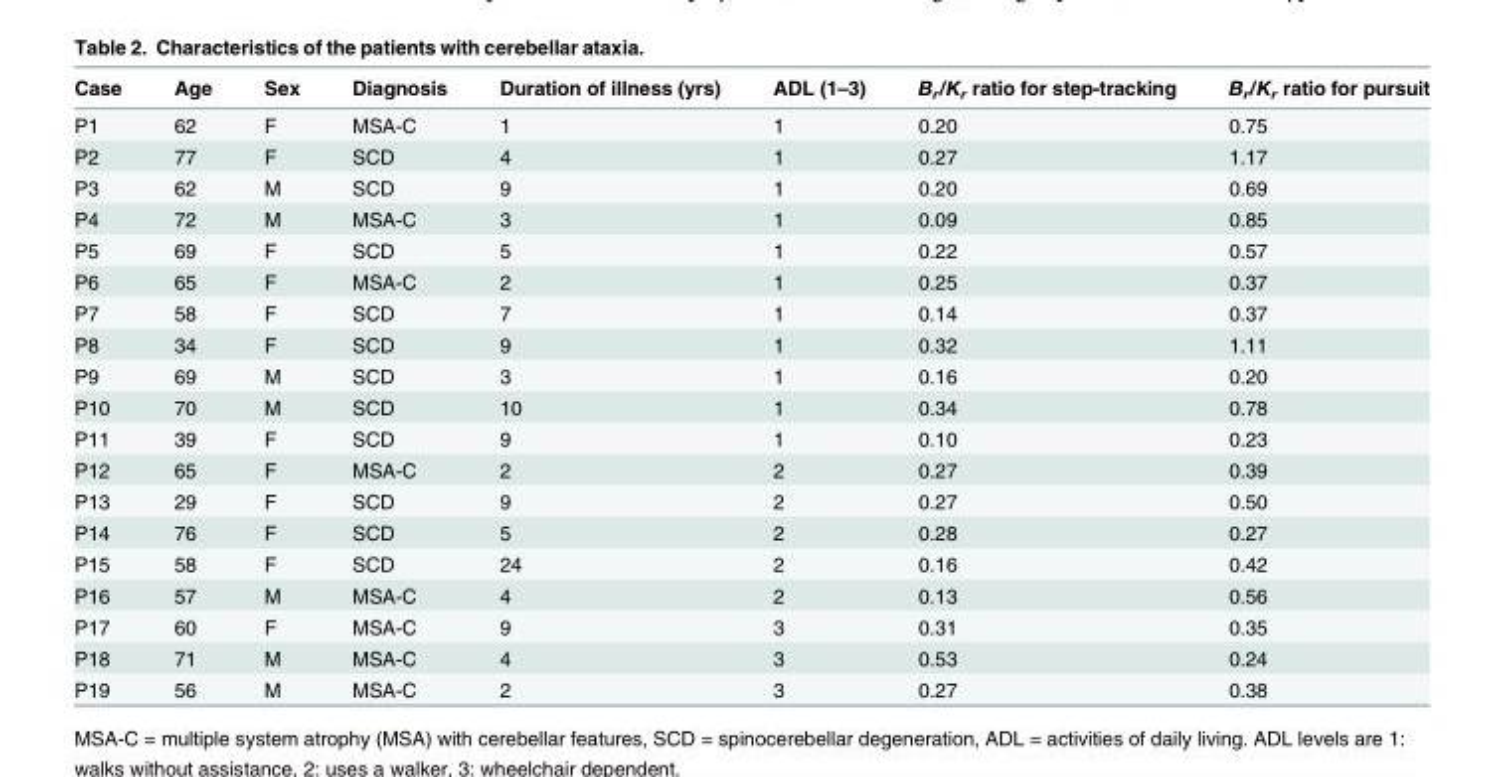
<table><thead><tr><td>Case</td><td>Age</td><td>Sex</td><td>Diagnosis</td><td>Duration of illness (yrs)</td><td>ADL (1–3)</td><td>B<sub>r</sub>/K<sub>r</sub> ratio for step-tracking</td><td>B<sub>r</sub>/K<sub>r</sub> ratio for pursuit</td></tr></thead><tbody><tr><td>P1</td><td>62</td><td>F</td><td>MSA-C</td><td>1</td><td>1</td><td>0.20</td><td>0.75</td></tr><tr><td>P2</td><td>77</td><td>F</td><td>SCD</td><td>4</td><td>1</td><td>0.27</td><td>1.17</td></tr><tr><td>P3</td><td>62</td><td>M</td><td>SCD</td><td>9</td><td>1</td><td>0.20</td><td>0.69</td></tr><tr><td>P4</td><td>72</td><td>M</td><td>MSA-C</td><td>3</td><td>1</td><td>0.09</td><td>0.85</td></tr><tr><td>P5</td><td>69</td><td>F</td><td>SCD</td><td>5</td><td>1</td><td>0.22</td><td>0.57</td></tr><tr><td>P6</td><td>65</td><td>F</td><td>MSA-C</td><td>2</td><td>1</td><td>0.25</td><td>0.37</td></tr><tr><td>P7</td><td>58</td><td>F</td><td>SCD</td><td>7</td><td>1</td><td>0.14</td><td>0.37</td></tr><tr><td>P8</td><td>34</td><td>F</td><td>SCD</td><td>9</td><td>1</td><td>0.32</td><td>1.11</td></tr><tr><td>P9</td><td>69</td><td>M</td><td>SCD</td><td>3</td><td>1</td><td>0.16</td><td>0.20</td></tr><tr><td>P10</td><td>70</td><td>M</td><td>SCD</td><td>10</td><td>1</td><td>0.34</td><td>0.78</td></tr><tr><td>P11</td><td>39</td><td>F</td><td>SCD</td><td>9</td><td>1</td><td>0.10</td><td>0.23</td></tr><tr><td>P12</td><td>65</td><td>F</td><td>MSA-C</td><td>2</td><td>2</td><td>0.27</td><td>0.39</td></tr><tr><td>P13</td><td>29</td><td>F</td><td>SCD</td><td>9</td><td>2</td><td>0.27</td><td>0.50</td></tr><tr><td>P14</td><td>76</td><td>F</td><td>SCD</td><td>5</td><td>2</td><td>0.28</td><td>0.27</td></tr><tr><td>P15</td><td>58</td><td>F</td><td>SCD</td><td>24</td><td>2</td><td>0.16</td><td>0.42</td></tr><tr><td>P16</td><td>57</td><td>M</td><td>MSA-C</td><td>4</td><td>2</td><td>0.13</td><td>0.56</td></tr><tr><td>P17</td><td>60</td><td>F</td><td>MSA-C</td><td>9</td><td>3</td><td>0.31</td><td>0.35</td></tr><tr><td>P18</td><td>71</td><td>M</td><td>MSA-C</td><td>4</td><td>3</td><td>0.53</td><td>0.24</td></tr><tr><td>P19</td><td>56</td><td>M</td><td>MSA-C</td><td>2</td><td>3</td><td>0.27</td><td>0.38</td></tr></tbody></table>